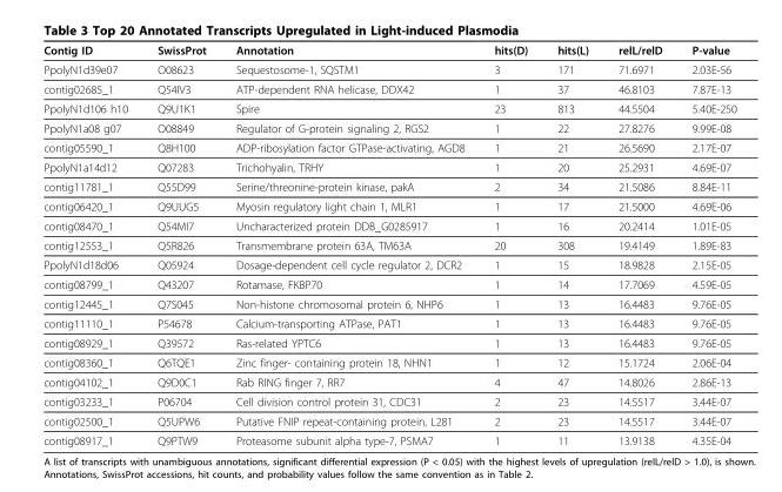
<table><thead><tr><td>Contig ID</td><td>SwissProt</td><td>Annotation</td><td>hits(D)</td><td>hits(L)</td><td>relL/relD</td><td>P-value</td></tr></thead><tbody><tr><td>PpolyN1d39e07</td><td>O08623</td><td>Sequestosome-1, SQSTM1</td><td>3</td><td>171</td><td>71.6971</td><td>2.03E-56</td></tr><tr><td>contig02685_1</td><td>Q54IV3</td><td>ATP-dependent RNA helicase, DDX42</td><td>1</td><td>37</td><td>46.8103</td><td>7.87E-13</td></tr><tr><td>PpolyN1d106 h10</td><td>Q9U1K1</td><td>Spire</td><td>23</td><td>813</td><td>44.5504</td><td>5.40E-250</td></tr><tr><td>PpolyN1a08 g07</td><td>O08849</td><td>Regulator of G-protein signaling 2, RGS2</td><td>1</td><td>22</td><td>27.8276</td><td>9.99E-08</td></tr><tr><td>contig05590_1</td><td>Q8H100</td><td>ADP-ribosylation factor GTPase-activating, AGD8</td><td>1</td><td>21</td><td>26.5690</td><td>2.17E-07</td></tr><tr><td>PpolyN1a14d12</td><td>Q07283</td><td>Trichohyalin, TRHY</td><td>1</td><td>20</td><td>25.2931</td><td>4.69E-07</td></tr><tr><td>contig11781_1</td><td>Q55D99</td><td>Serine/threonine-protein kinase, pakA</td><td>2</td><td>34</td><td>21.5086</td><td>8.84E-11</td></tr><tr><td>contig06420_1</td><td>Q9UUG5</td><td>Myosin regulatory light chain 1, MLR1</td><td>1</td><td>17</td><td>21.5000</td><td>4.69E-06</td></tr><tr><td>contig08470_1</td><td>Q54MI7</td><td>Uncharacterized protein DDB_G0285917</td><td>1</td><td>16</td><td>20.2414</td><td>1.01E-05</td></tr><tr><td>contig12553_1</td><td>Q5R826</td><td>Transmembrane protein 63A, TM63A</td><td>20</td><td>308</td><td>19.4149</td><td>1.89E-83</td></tr><tr><td>PpolyN1d18d06</td><td>Q05924</td><td>Dosage-dependent cell cycle regulator 2, DCR2</td><td>1</td><td>15</td><td>18.9828</td><td>2.15E-05</td></tr><tr><td>contig08799_1</td><td>Q43207</td><td>Rotamase, FKBP70</td><td>1</td><td>14</td><td>17.7069</td><td>4.59E-05</td></tr><tr><td>contig12445_1</td><td>Q7S045</td><td>Non-histone chromosomal protein 6, NHP6</td><td>1</td><td>13</td><td>16.4483</td><td>9.76E-05</td></tr><tr><td>contig11110_1</td><td>P54678</td><td>Calcium-transporting ATPase, PAT1</td><td>1</td><td>13</td><td>16.4483</td><td>9.76E-05</td></tr><tr><td>contig08929_1</td><td>Q39572</td><td>Ras-related YPTC6</td><td>1</td><td>13</td><td>16.4483</td><td>9.76E-05</td></tr><tr><td>contig08360_1</td><td>Q6TQE1</td><td>Zinc finger- containing protein 18, NHN1</td><td>1</td><td>12</td><td>15.1724</td><td>2.06E-04</td></tr><tr><td>contig04102_1</td><td>Q9D0C1</td><td>Rab RING finger 7, RR7</td><td>4</td><td>47</td><td>14.8026</td><td>2.86E-13</td></tr><tr><td>contig03233_1</td><td>P06704</td><td>Cell division control protein 31, CDC31</td><td>2</td><td>23</td><td>14.5517</td><td>3.44E-07</td></tr><tr><td>contig02500_1</td><td>Q5UPW6</td><td>Putative FNIP repeat-containing protein, L281</td><td>2</td><td>23</td><td>14.5517</td><td>3.44E-07</td></tr><tr><td>contig08917_1</td><td>Q9PTW9</td><td>Proteasome subunit alpha type-7, PSMA7</td><td>1</td><td>11</td><td>13.9138</td><td>4.35E-04</td></tr></tbody></table>